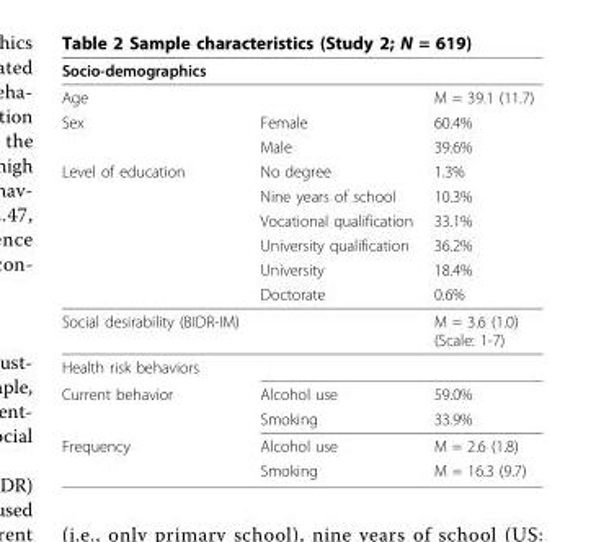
<table><thead><tr><td>Socio-demographics</td><td></td><td></td></tr></thead><tbody><tr><td>Age</td><td></td><td>M = 39.1 (11.7)</td></tr><tr><td rowspan="2">Sex</td><td>Female</td><td>60.4%</td></tr><tr><td>Male</td><td>39.6%</td></tr><tr><td rowspan="6">Level of education</td><td>No degree</td><td>1.3%</td></tr><tr><td>Nine years of school</td><td>10.3%</td></tr><tr><td>Vocational qualification</td><td>33.1%</td></tr><tr><td>University qualification</td><td>36.2%</td></tr><tr><td>University</td><td>18.4%</td></tr><tr><td>Doctorate</td><td>0.6%</td></tr><tr><td>Social desirability (BIDR-IM)</td><td></td><td>M = 3.6 (1.0) (Scale: 1-7)</td></tr><tr><td colspan="3">Health risk behaviors</td></tr><tr><td rowspan="2">Current behavior</td><td>Alcohol use</td><td>59.0%</td></tr><tr><td>Smoking</td><td>33.9%</td></tr><tr><td rowspan="2">Frequency</td><td>Alcohol use</td><td>M = 2.6 (1.8)</td></tr><tr><td>Smoking</td><td>M = 16.3 (9.7)</td></tr></tbody></table>